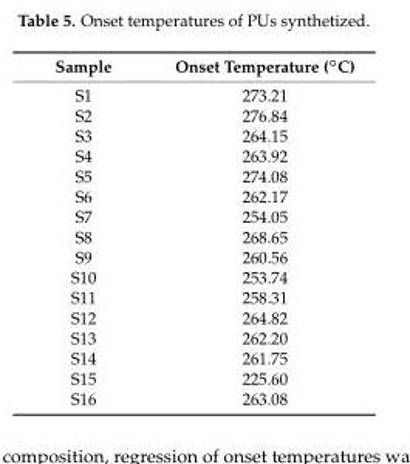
<table><thead><tr><td>Sample</td><td>Onset Temperature (◦C)</td></tr></thead><tbody><tr><td>S1</td><td>273.21</td></tr><tr><td>S2</td><td>276.84</td></tr><tr><td>S3</td><td>264.15</td></tr><tr><td>S4</td><td>263.92</td></tr><tr><td>S5</td><td>274.08</td></tr><tr><td>S6</td><td>262.17</td></tr><tr><td>S7</td><td>254.05</td></tr><tr><td>S8</td><td>268.65</td></tr><tr><td>S9</td><td>260.56</td></tr><tr><td>S10</td><td>253.74</td></tr><tr><td>S11</td><td>258.31</td></tr><tr><td>S12</td><td>264.82</td></tr><tr><td>S13</td><td>262.20</td></tr><tr><td>S14</td><td>261.75</td></tr><tr><td>S15</td><td>225.60</td></tr><tr><td>S16</td><td>263.08</td></tr></tbody></table>